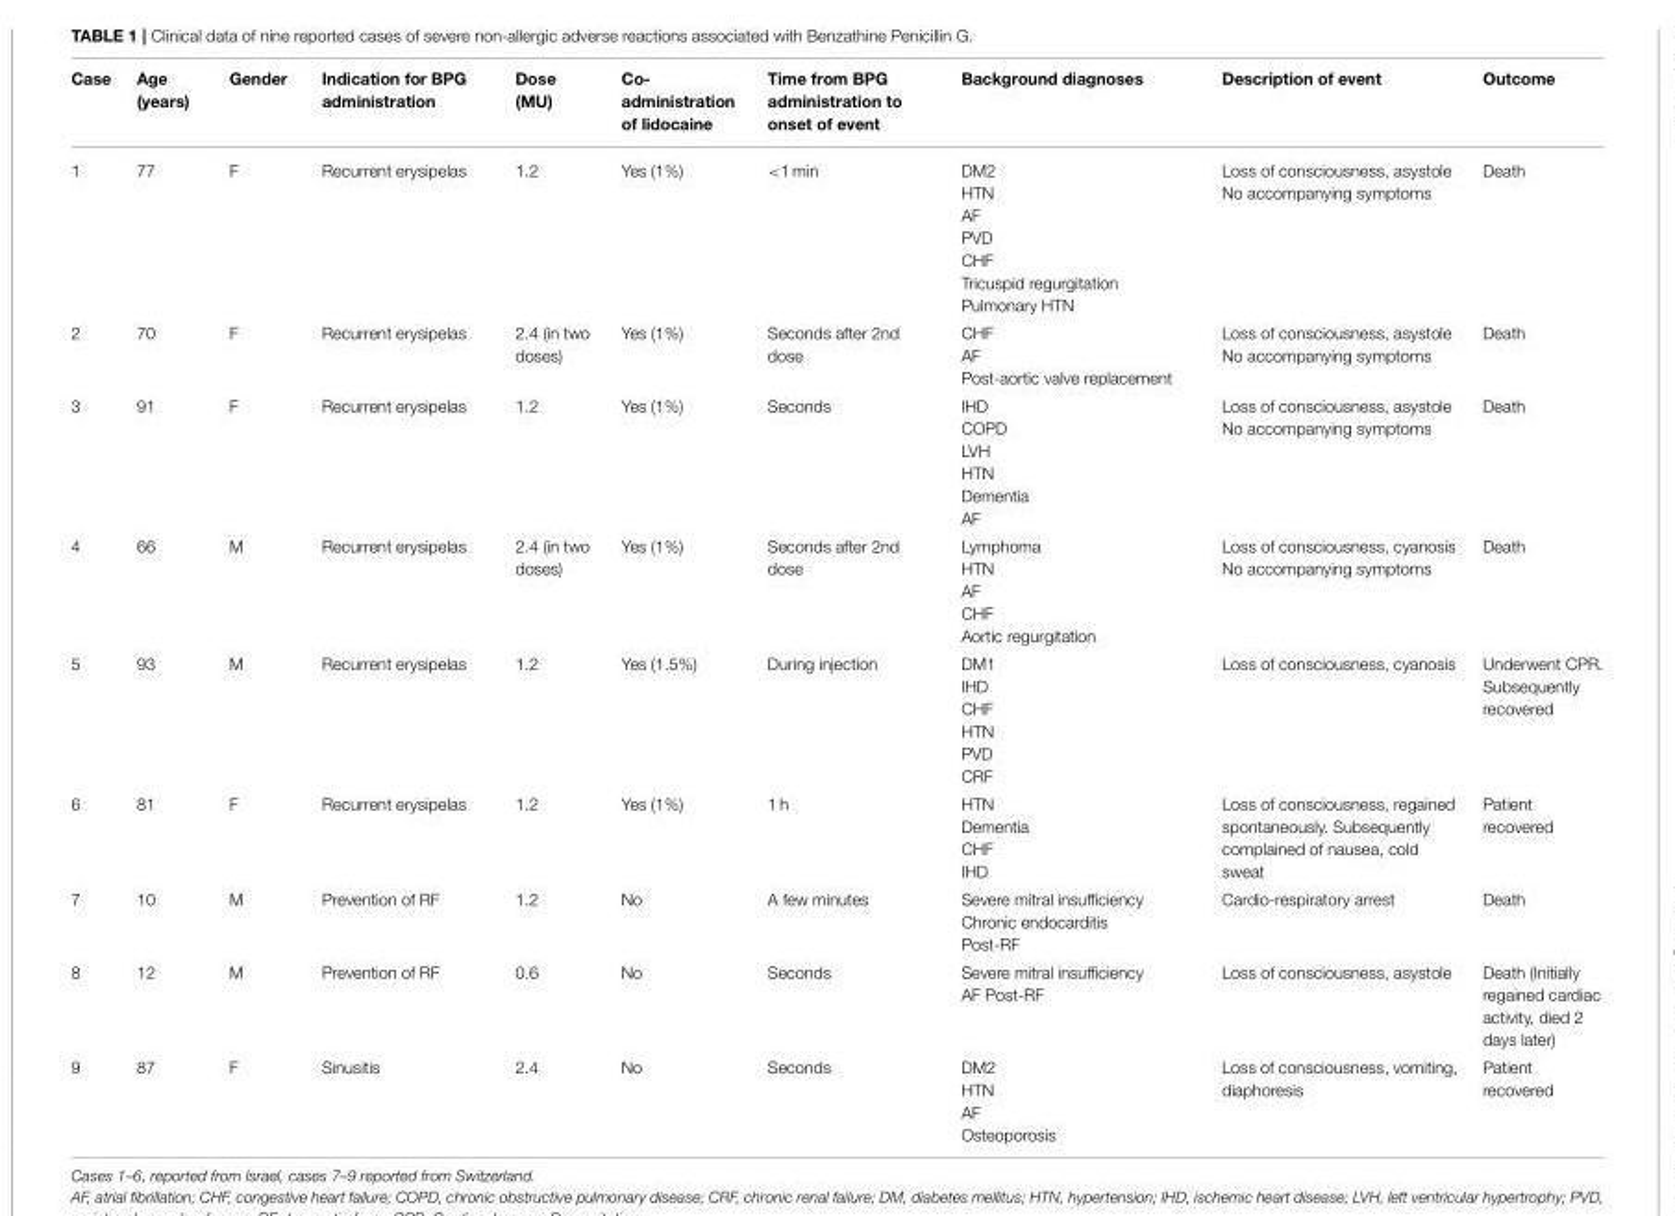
<table><thead><tr><td>Case</td><td>Age (years)</td><td>Gender</td><td>Indication for BPG administration</td><td>Dose (MU)</td><td>Co- administration of lidocaine</td><td>Time from BPG administration to onset of event</td><td>Background diagnoses</td><td>Description of event</td><td>Outcome</td></tr></thead><tbody><tr><td>1</td><td>77</td><td>F</td><td>Recurrent erysipelas</td><td>1.2</td><td>Yes (1%)</td><td>&lt;1 min</td><td>DM2 HTN AF PVD CHF Tricuspid regurgitation Pulmonary HTN</td><td>Loss of consciousness, asystole No accompanying symptoms</td><td>Death</td></tr><tr><td>2</td><td>70</td><td>F</td><td>Recurrent erysipelas</td><td>2.4 (in two doses)</td><td>Yes (1%)</td><td>Seconds after 2nd dose</td><td>CHF AF Post-aortic valve replacement</td><td>Loss of consciousness, asystole No accompanying symptoms</td><td>Death</td></tr><tr><td>3</td><td>91</td><td>F</td><td>Recurrent erysipelas</td><td>1.2</td><td>Yes (1%)</td><td>Seconds</td><td>IHD COPD LVH HTN Dementia AF</td><td>Loss of consciousness, asystole No accompanying symptoms</td><td>Death</td></tr><tr><td>4</td><td>66</td><td>M</td><td>Recurrent erysipelas</td><td>2.4 (in two doses)</td><td>Yes (1%)</td><td>Seconds after 2nd dose</td><td>Lymphoma HTN AF CHF Aortic regurgitation</td><td>Loss of consciousness, cyanosis No accompanying symptoms</td><td>Death</td></tr><tr><td>5</td><td>93</td><td>M</td><td>Recurrent erysipelas</td><td>1.2</td><td>Yes (1.5%)</td><td>During injection</td><td>DM1 IHD CHF HTN PVD CRF</td><td>Loss of consciousness, cyanosis</td><td>Underwent CPR. Subsequently recovered</td></tr><tr><td>6</td><td>81</td><td>F</td><td>Recurrent erysipelas</td><td>1.2</td><td>Yes (1%)</td><td>1 h</td><td>HTN Dementia CHF IHD</td><td>Loss of consciousness, regained spontaneously. Subsequently complained of nausea, cold sweat</td><td>Patient recovered</td></tr><tr><td>7</td><td>10</td><td>M</td><td>Prevention of RF</td><td>1.2</td><td>No</td><td>A few minutes</td><td>Severe mitral insufficiency Chronic endocarditis Post-RF</td><td>Cardio-respiratory arrest</td><td>Death</td></tr><tr><td>8</td><td>12</td><td>M</td><td>Prevention of RF</td><td>0.6</td><td>No</td><td>Seconds</td><td>Severe mitral insufficiency AF Post-RF</td><td>Loss of consciousness, asystole</td><td>Death (Initially regained cardiac activity, died 2 days later)</td></tr><tr><td>9</td><td>87</td><td>F</td><td>Sinusitis</td><td>2.4</td><td>No</td><td>Seconds</td><td>DM2 HTN AF Osteoporosis</td><td>Loss of consciousness, vomiting, diaphoresis</td><td>Patient recovered</td></tr></tbody></table>